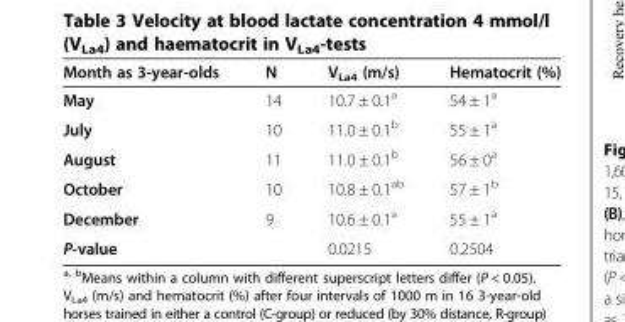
<table><thead><tr><td>Month as 3-year-olds</td><td>N</td><td>V<sub>La4</sub> (m/s)</td><td>Hematocrit (%)</td></tr></thead><tbody><tr><td>May</td><td>14</td><td>10.7 ± 0.1<sup>a</sup></td><td>54 ± 1<sup>a</sup></td></tr><tr><td>July</td><td>10</td><td>11.0 ± 0.1<sup>b</sup></td><td>55 ± 1<sup>a</sup></td></tr><tr><td>August</td><td>11</td><td>11.0 ± 0.1<sup>b</sup></td><td>56 ± 0<sup>a</sup></td></tr><tr><td>October</td><td>10</td><td>10.8 ± 0.1<sup>ab</sup></td><td>57 ± 1<sup>b</sup></td></tr><tr><td>December</td><td>9</td><td>10.6 ± 0.1<sup>a</sup></td><td>55 ± 1<sup>a</sup></td></tr><tr><td>P-value</td><td></td><td>0.0215</td><td>0.2504</td></tr></tbody></table>